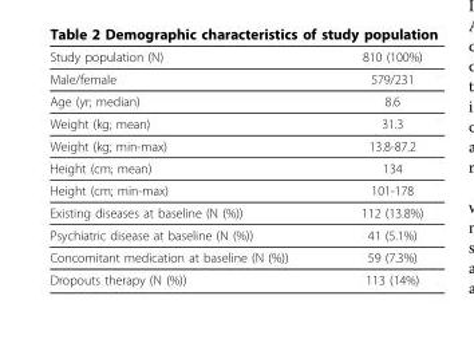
<table><thead><tr><td>Study population (N)</td><td>810 (100%)</td></tr></thead><tbody><tr><td>Male/female</td><td>579/231</td></tr><tr><td>Age (yr; median)</td><td>8.6</td></tr><tr><td>Weight (kg; mean)</td><td>31.3</td></tr><tr><td>Weight (kg; min-max)</td><td>13.8-87.2</td></tr><tr><td>Height (cm; mean)</td><td>134</td></tr><tr><td>Height (cm; min-max)</td><td>101-178</td></tr><tr><td>Existing diseases at baseline (N (%))</td><td>112 (13.8%)</td></tr><tr><td>Psychiatric disease at baseline (N (%))</td><td>41 (5.1%)</td></tr><tr><td>Concomitant medication at baseline (N (%))</td><td>59 (7.3%)</td></tr><tr><td>Dropouts therapy (N (%))</td><td>113 (14%)</td></tr></tbody></table>